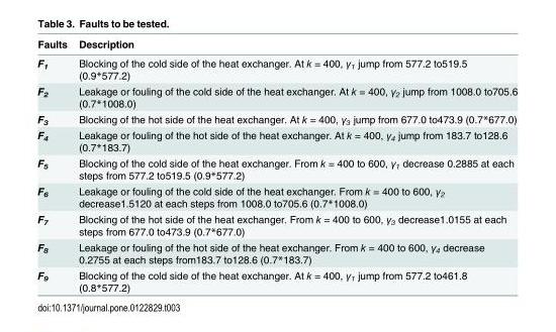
<table><thead><tr><td>Faults</td><td>Description</td></tr></thead><tbody><tr><td>F<sub>1</sub></td><td>Blocking of the cold side of the heat exchanger. At k = 400, γ<sub>1</sub> jump from 577.2 to519.5 (0.9*577.2)</td></tr><tr><td>F<sub>2</sub></td><td>Leakage or fouling of the cold side of the heat exchanger. At k = 400, γ<sub>2</sub> jump from 1008.0 to705.6 (0.7*1008.0)</td></tr><tr><td>F<sub>3</sub></td><td>Blocking of the hot side of the heat exchanger. At k = 400, γ<sub>3</sub> jump from 677.0 to473.9 (0.7*677.0)</td></tr><tr><td>F<sub>4</sub></td><td>Leakage or fouling of the hot side of the heat exchanger. At k = 400, γ<sub>4</sub> jump from 183.7 to128.6 (0.7*183.7)</td></tr><tr><td>F<sub>5</sub></td><td>Blocking of the cold side of the heat exchanger. From k = 400 to 600, γ<sub>1</sub> decrease 0.2885 at each steps from 577.2 to519.5 (0.9*577.2)</td></tr><tr><td>F<sub>6</sub></td><td>Leakage or fouling of the cold side of the heat exchanger. From k = 400 to 600, γ<sub>2</sub> decrease1.5120 at each steps from 1008.0 to705.6 (0.7*1008.0)</td></tr><tr><td>F<sub>7</sub></td><td>Blocking of the hot side of the heat exchanger. From k = 400 to 600, γ<sub>3</sub> decrease1.0155 at each steps from 677.0 to473.9 (0.7*677.0)</td></tr><tr><td>F<sub>8</sub></td><td>Leakage or fouling of the hot side of the heat exchanger. From k = 400 to 600, γ<sub>4</sub> decrease 0.2755 at each steps from183.7 to128.6 (0.7*183.7)</td></tr><tr><td>F<sub>9</sub></td><td>Blocking of the cold side of the heat exchanger. At k = 400, γ<sub>1</sub> jump from 577.2 to461.8 (0.8*577.2)</td></tr></tbody></table>